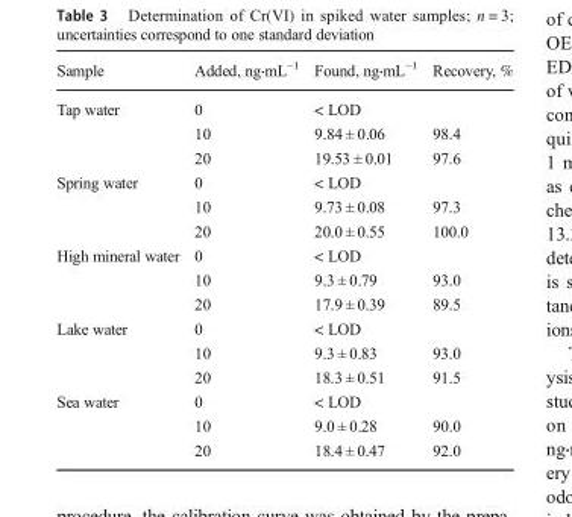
<table><thead><tr><td>Sample</td><td>Added, ng⋅mL<sup>−1</sup></td><td>Found, ng⋅mL<sup>−1</sup></td><td>Recovery, %</td></tr></thead><tbody><tr><td rowspan="3">Tap water</td><td>0</td><td>&lt; LOD</td><td></td></tr><tr><td>10</td><td>9.84 ± 0.06</td><td>98.4</td></tr><tr><td>20</td><td>19.53 ± 0.01</td><td>97.6</td></tr><tr><td rowspan="3">Spring water</td><td>0</td><td>&lt; LOD</td><td></td></tr><tr><td>10</td><td>9.73 ± 0.08</td><td>97.3</td></tr><tr><td>20</td><td>20.0 ± 0.55</td><td>100.0</td></tr><tr><td rowspan="3">High mineral water</td><td>0</td><td>&lt; LOD</td><td></td></tr><tr><td>10</td><td>9.3 ± 0.79</td><td>93.0</td></tr><tr><td>20</td><td>17.9 ± 0.39</td><td>89.5</td></tr><tr><td rowspan="3">Lake water</td><td>0</td><td>&lt; LOD</td><td></td></tr><tr><td>10</td><td>9.3 ± 0.83</td><td>93.0</td></tr><tr><td>20</td><td>18.3 ± 0.51</td><td>91.5</td></tr><tr><td rowspan="3">Sea water</td><td>0</td><td>&lt; LOD</td><td></td></tr><tr><td>10</td><td>9.0 ± 0.28</td><td>90.0</td></tr><tr><td>20</td><td>18.4 ± 0.47</td><td>92.0</td></tr></tbody></table>